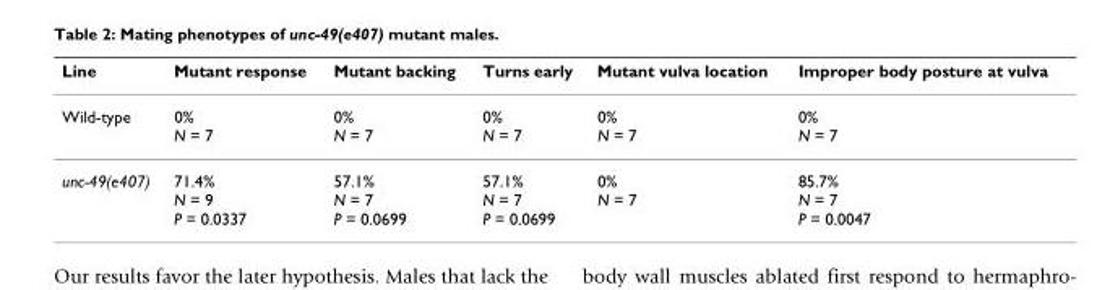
<table><thead><tr><td>Line</td><td>Mutant response</td><td>Mutant backing</td><td>Turns early</td><td>Mutant vulva location</td><td>Improper body posture at vulva</td></tr></thead><tbody><tr><td>Wild-type</td><td>0% N = 7</td><td>0% N = 7</td><td>0% N = 7</td><td>0% N = 7</td><td>0% N = 7</td></tr><tr><td>unc-49(e407)</td><td>71.4% N = 9 P = 0.0337</td><td>57.1% N = 7 P = 0.0699</td><td>57.1% N = 7 P = 0.0699</td><td>0% N = 7</td><td>85.7% N = 7 P = 0.0047</td></tr></tbody></table>